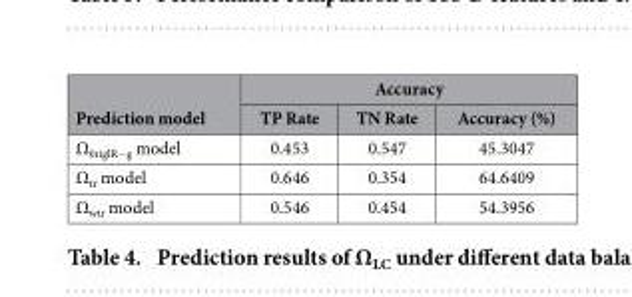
<table><thead><tr><td rowspan="2">Prediction model</td><td colspan="3">Accuracy</td></tr><tr><td>TP Rate</td><td>TN Rate</td><td>Accuracy (%)</td></tr></thead><tbody><tr><td>Ω<sub>0riglR−g</sub> model</td><td>0.453</td><td>0.547</td><td>45.3047</td></tr><tr><td>Ω<sub>tr</sub> model</td><td>0.646</td><td>0.354</td><td>64.6409</td></tr><tr><td>Ω<sub>wtr</sub> model</td><td>0.546</td><td>0.454</td><td>54.3956</td></tr></tbody></table>